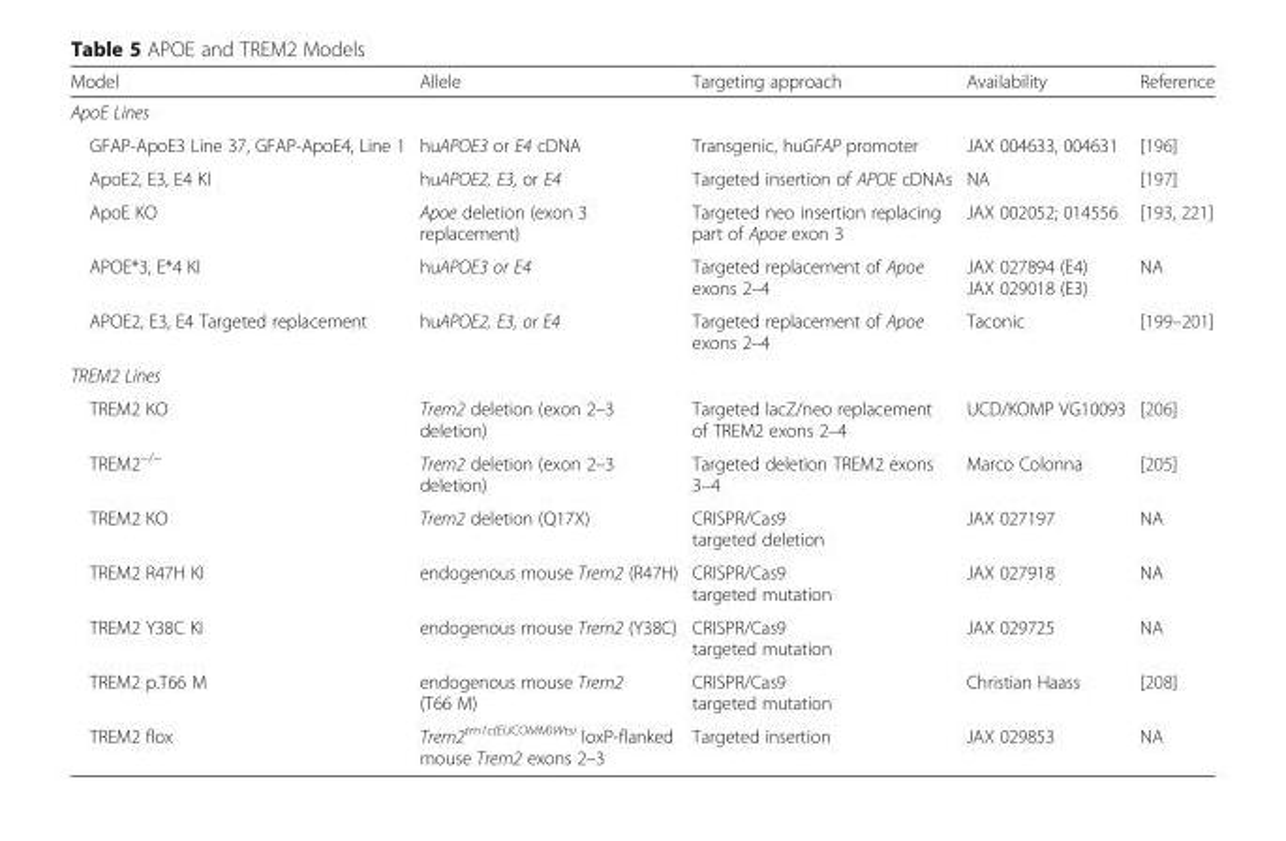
<table><thead><tr><td>Model</td><td>Allele</td><td>Targeting approach</td><td>Availability</td><td>Reference</td></tr></thead><tbody><tr><td colspan="5">ApoE Lines</td></tr><tr><td>GFAP-ApoE3 Line 37, GFAP-ApoE4, Line 1</td><td>huAPOE3 or E4 cDNA</td><td>Transgenic, huGFAP promoter</td><td>JAX 004633, 004631</td><td>[196]</td></tr><tr><td>ApoE2, E3, E4 KI</td><td>huAPOE2, E3, or E4</td><td>Targeted insertion of APOE cDNAs</td><td>NA</td><td>[197]</td></tr><tr><td>ApoE KO</td><td>Apoe deletion (exon 3 replacement)</td><td>Targeted neo insertion replacing part of Apoe exon 3</td><td>JAX 002052; 014556</td><td>[193, 221]</td></tr><tr><td>APOE*3, E*4 KI</td><td>huAPOE3 or E4</td><td>Targeted replacement of Apoe exons 2–4</td><td>JAX 027894 (E4) JAX 029018 (E3)</td><td>NA</td></tr><tr><td>APOE2, E3, E4 Targeted replacement</td><td>huAPOE2, E3, or E4</td><td>Targeted replacement of Apoe exons 2–4</td><td>Taconic</td><td>[199–201]</td></tr><tr><td colspan="5">TREM2 Lines</td></tr><tr><td>TREM2 KO</td><td>Trem2 deletion (exon 2–3 deletion)</td><td>Targeted lacZ/neo replacement of TREM2 exons 2–4</td><td>UCD/KOMP VG10093</td><td>[206]</td></tr><tr><td>TREM2<sup>−/−</sup></td><td>Trem2 deletion (exon 2–3 deletion)</td><td>Targeted deletion TREM2 exons 3–4</td><td>Marco Colonna</td><td>[205]</td></tr><tr><td>TREM2 KO</td><td>Trem2 deletion (Q17X)</td><td>CRISPR/Cas9 targeted deletion</td><td>JAX 027197</td><td>NA</td></tr><tr><td>TREM2 R47H KI</td><td>endogenous mouse Trem2 (R47H)</td><td>CRISPR/Cas9 targeted mutation</td><td>JAX 027918</td><td>NA</td></tr><tr><td>TREM2 Y38C KI</td><td>endogenous mouse Trem2 (Y38C)</td><td>CRISPR/Cas9 targeted mutation</td><td>JAX 029725</td><td>NA</td></tr><tr><td>TREM2 p.T66 M</td><td>endogenous mouse Trem2 (T66 M)</td><td>CRISPR/Cas9 targeted mutation</td><td>Christian Haass</td><td>[208]</td></tr><tr><td>TREM2 flox</td><td>Trem2<sup>tm1c(EUCOMM)Wtsi</sup> loxP-flanked mouse Trem2 exons 2–3</td><td>Targeted insertion</td><td>JAX 029853</td><td>NA</td></tr></tbody></table>